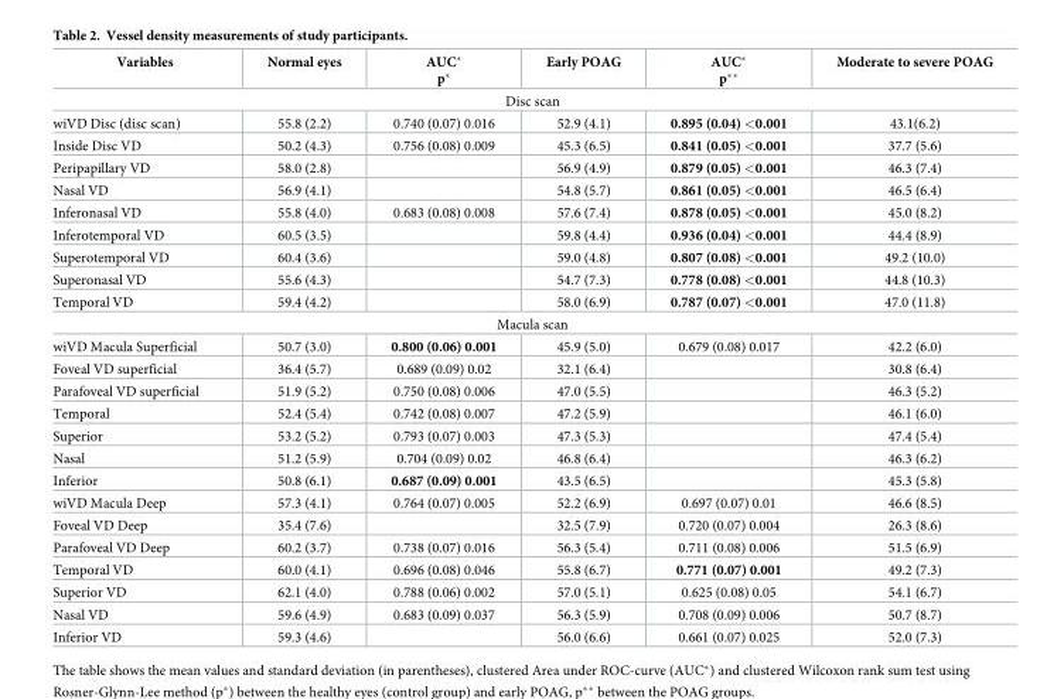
<table><thead><tr><td>Variables</td><td>Normal eyes</td><td>AUC* p*</td><td>Early POAG</td><td>AUC* p**</td><td>Moderate to severe POAG</td></tr></thead><tbody><tr><td colspan="6">Disc scan</td></tr><tr><td>wiVD Disc (disc scan)</td><td>55.8 (2.2)</td><td>0.740 (0.07) 0.016</td><td>52.9 (4.1)</td><td>0.895 (0.04) &lt;0.001</td><td>43.1(6.2)</td></tr><tr><td>Inside Disc VD</td><td>50.2 (4.3)</td><td>0.756 (0.08) 0.009</td><td>45.3 (6.5)</td><td>0.841 (0.05) &lt;0.001</td><td>37.7 (5.6)</td></tr><tr><td>Peripapillary VD</td><td>58.0 (2.8)</td><td></td><td>56.9 (4.9)</td><td>0.879 (0.05) &lt;0.001</td><td>46.3 (7.4)</td></tr><tr><td>Nasal VD</td><td>56.9 (4.1)</td><td></td><td>54.8 (5.7)</td><td>0.861 (0.05) &lt;0.001</td><td>46.5 (6.4)</td></tr><tr><td>Inferonasal VD</td><td>55.8 (4.0)</td><td>0.683 (0.08) 0.008</td><td>57.6 (7.4)</td><td>0.878 (0.05) &lt;0.001</td><td>45.0 (8.2)</td></tr><tr><td>Inferotemporal VD</td><td>60.5 (3.5)</td><td></td><td>59.8 (4.4)</td><td>0.936 (0.04) &lt;0.001</td><td>44.4 (8.9)</td></tr><tr><td>Superotemporal VD</td><td>60.4 (3.6)</td><td></td><td>59.0 (4.8)</td><td>0.807 (0.08) &lt;0.001</td><td>49.2 (10.0)</td></tr><tr><td>Superonasal VD</td><td>55.6 (4.3)</td><td></td><td>54.7 (7.3)</td><td>0.778 (0.08) &lt;0.001</td><td>44.8 (10.3)</td></tr><tr><td>Temporal VD</td><td>59.4 (4.2)</td><td></td><td>58.0 (6.9)</td><td>0.787 (0.07) &lt;0.001</td><td>47.0 (11.8)</td></tr><tr><td colspan="6">Macula scan</td></tr><tr><td>wiVD Macula Superficial</td><td>50.7 (3.0)</td><td>0.800 (0.06) 0.001</td><td>45.9 (5.0)</td><td>0.679 (0.08) 0.017</td><td>42.2 (6.0)</td></tr><tr><td>Foveal VD superficial</td><td>36.4 (5.7)</td><td>0.689 (0.09) 0.02</td><td>32.1 (6.4)</td><td></td><td>30.8 (6.4)</td></tr><tr><td>Parafoveal VD superficial</td><td>51.9 (5.2)</td><td>0.750 (0.08) 0.006</td><td>47.0 (5.5)</td><td></td><td>46.3 (5.2)</td></tr><tr><td>Temporal</td><td>52.4 (5.4)</td><td>0.742 (0.08) 0.007</td><td>47.2 (5.9)</td><td></td><td>46.1 (6.0)</td></tr><tr><td>Superior</td><td>53.2 (5.2)</td><td>0.793 (0.07) 0.003</td><td>47.3 (5.3)</td><td></td><td>47.4 (5.4)</td></tr><tr><td>Nasal</td><td>51.2 (5.9)</td><td>0.704 (0.09) 0.02</td><td>46.8 (6.4)</td><td></td><td>46.3 (6.2)</td></tr><tr><td>Inferior</td><td>50.8 (6.1)</td><td>0.687 (0.09) 0.001</td><td>43.5 (6.5)</td><td></td><td>45.3 (5.8)</td></tr><tr><td>wiVD Macula Deep</td><td>57.3 (4.1)</td><td>0.764 (0.07) 0.005</td><td>52.2 (6.9)</td><td>0.697 (0.07) 0.01</td><td>46.6 (8.5)</td></tr><tr><td>Foveal VD Deep</td><td>35.4 (7.6)</td><td></td><td>32.5 (7.9)</td><td>0.720 (0.07) 0.004</td><td>26.3 (8.6)</td></tr><tr><td>Parafoveal VD Deep</td><td>60.2 (3.7)</td><td>0.738 (0.07) 0.016</td><td>56.3 (5.4)</td><td>0.711 (0.08) 0.006</td><td>51.5 (6.9)</td></tr><tr><td>Temporal VD</td><td>60.0 (4.1)</td><td>0.696 (0.08) 0.046</td><td>55.8 (6.7)</td><td>0.771 (0.07) 0.001</td><td>49.2 (7.3)</td></tr><tr><td>Superior VD</td><td>62.1 (4.0)</td><td>0.788 (0.06) 0.002</td><td>57.0 (5.1)</td><td>0.625 (0.08) 0.05</td><td>54.1 (6.7)</td></tr><tr><td>Nasal VD</td><td>59.6 (4.9)</td><td>0.683 (0.09) 0.037</td><td>56.3 (5.9)</td><td>0.708 (0.09) 0.006</td><td>50.7 (8.7)</td></tr><tr><td>Inferior VD</td><td>59.3 (4.6)</td><td></td><td>56.0 (6.6)</td><td>0.661 (0.07) 0.025</td><td>52.0 (7.3)</td></tr></tbody></table>